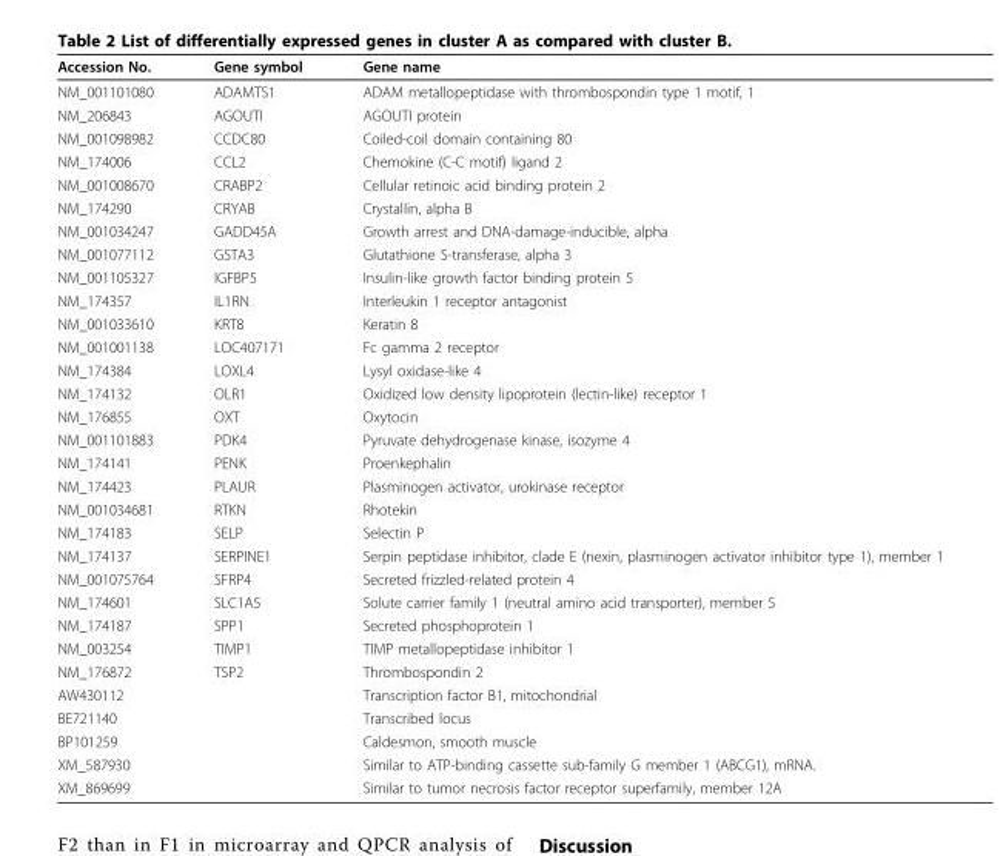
<table><thead><tr><td>Accession No.</td><td>Gene symbol</td><td>Gene name</td></tr></thead><tbody><tr><td>NM_001101080</td><td>ADAMTS1</td><td>ADAM metallopeptidase with thrombospondin type 1 motif, 1</td></tr><tr><td>NM_206843</td><td>AGOUTI</td><td>AGOUTI protein</td></tr><tr><td>NM_001098982</td><td>CCDC80</td><td>Coiled-coil domain containing 80</td></tr><tr><td>NM_174006</td><td>CCL2</td><td>Chemokine (C-C motif) ligand 2</td></tr><tr><td>NM_001008670</td><td>CRABP2</td><td>Cellular retinoic acid binding protein 2</td></tr><tr><td>NM_174290</td><td>CRYAB</td><td>Crystallin, alpha B</td></tr><tr><td>NM_001034247</td><td>GADD45A</td><td>Growth arrest and DNA-damage-inducible, alpha</td></tr><tr><td>NM_001077112</td><td>GSTA3</td><td>Glutathione S-transferase, alpha 3</td></tr><tr><td>NM_001105327</td><td>IGFBP5</td><td>Insulin-like growth factor binding protein 5</td></tr><tr><td>NM_174357</td><td>IL1RN</td><td>Interleukin 1 receptor antagonist</td></tr><tr><td>NM_001033610</td><td>KRT8</td><td>Keratin 8</td></tr><tr><td>NM_001001138</td><td>LOC407171</td><td>Fc gamma 2 receptor</td></tr><tr><td>NM_174384</td><td>LOXL4</td><td>Lysyl oxidase-like 4</td></tr><tr><td>NM_174132</td><td>OLR1</td><td>Oxidized low density lipoprotein (lectin-like) receptor 1</td></tr><tr><td>NM_176855</td><td>OXT</td><td>Oxytocin</td></tr><tr><td>NM_001101883</td><td>PDK4</td><td>Pyruvate dehydrogenase kinase, isozyme 4</td></tr><tr><td>NM_174141</td><td>PENK</td><td>Proenkephalin</td></tr><tr><td>NM_174423</td><td>PLAUR</td><td>Plasminogen activator, urokinase receptor</td></tr><tr><td>NM_001034681</td><td>RTKN</td><td>Rhotekin</td></tr><tr><td>NM_174183</td><td>SELP</td><td>Selectin P</td></tr><tr><td>NM_174137</td><td>SERPINE1</td><td>Serpin peptidase inhibitor, clade E (nexin, plasminogen activator inhibitor type 1), member 1</td></tr><tr><td>NM_001075764</td><td>SFRP4</td><td>Secreted frizzled-related protein 4</td></tr><tr><td>NM_174601</td><td>SLC1A5</td><td>Solute carrier family 1 (neutral amino acid transporter), member 5</td></tr><tr><td>NM_174187</td><td>SPP1</td><td>Secreted phosphoprotein 1</td></tr><tr><td>NM_003254</td><td>TIMP1</td><td>TIMP metallopeptidase inhibitor 1</td></tr><tr><td>NM_176872</td><td>TSP2</td><td>Thrombospondin 2</td></tr><tr><td>AW430112</td><td></td><td>Transcription factor B1, mitochondrial</td></tr><tr><td>BE721140</td><td></td><td>Transcribed locus</td></tr><tr><td>BP101259</td><td></td><td>Caldesmon, smooth muscle</td></tr><tr><td>XM_587930</td><td></td><td>Similar to ATP-binding cassette sub-family G member 1 (ABCG1), mRNA.</td></tr><tr><td>XM_869699</td><td></td><td>Similar to tumor necrosis factor receptor superfamily, member 12A</td></tr></tbody></table>